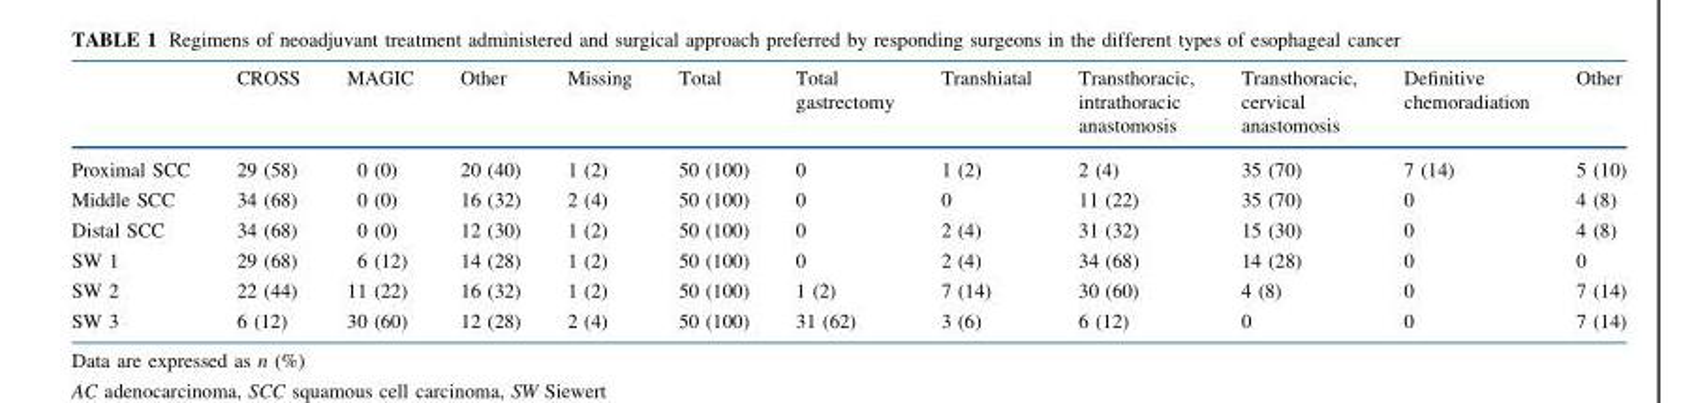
<table><thead><tr><td></td><td>CROSS</td><td>MAGIC</td><td>Other</td><td>Missing</td><td>Total</td><td>Total gastrectomy</td><td>Transhiatal</td><td>Transthoracic, intrathoracic anastomosis</td><td>Transthoracic, cervical anastomosis</td><td>Definitive chemoradiation</td><td>Other</td></tr></thead><tbody><tr><td>Proximal SCC</td><td>29 (58)</td><td>0 (0)</td><td>20 (40)</td><td>1 (2)</td><td>50 (100)</td><td>0</td><td>1 (2)</td><td>2 (4)</td><td>35 (70)</td><td>7 (14)</td><td>5 (10)</td></tr><tr><td>Middle SCC</td><td>34 (68)</td><td>0 (0)</td><td>16 (32)</td><td>2 (4)</td><td>50 (100)</td><td>0</td><td>0</td><td>11 (22)</td><td>35 (70)</td><td>0</td><td>4 (8)</td></tr><tr><td>Distal SCC</td><td>34 (68)</td><td>0 (0)</td><td>12 (30)</td><td>1 (2)</td><td>50 (100)</td><td>0</td><td>2 (4)</td><td>31 (32)</td><td>15 (30)</td><td>0</td><td>4 (8)</td></tr><tr><td>SW 1</td><td>29 (68)</td><td>6 (12)</td><td>14 (28)</td><td>1 (2)</td><td>50 (100)</td><td>0</td><td>2 (4)</td><td>34 (68)</td><td>14 (28)</td><td>0</td><td>0</td></tr><tr><td>SW 2</td><td>22 (44)</td><td>11 (22)</td><td>16 (32)</td><td>1 (2)</td><td>50 (100)</td><td>1 (2)</td><td>7 (14)</td><td>30 (60)</td><td>4 (8)</td><td>0</td><td>7 (14)</td></tr><tr><td>SW 3</td><td>6 (12)</td><td>30 (60)</td><td>12 (28)</td><td>2 (4)</td><td>50 (100)</td><td>31 (62)</td><td>3 (6)</td><td>6 (12)</td><td>0</td><td>0</td><td>7 (14)</td></tr></tbody></table>